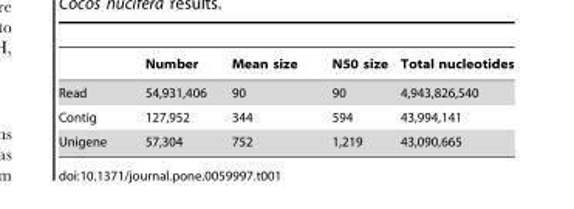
<table><thead><tr><td></td><td>Number</td><td>Mean size</td><td>N50 size</td><td>Total nucleotides</td></tr></thead><tbody><tr><td>Read</td><td>54,931,406</td><td>90</td><td>90</td><td>4,943,826,540</td></tr><tr><td>Contig</td><td>127,952</td><td>344</td><td>594</td><td>43,994,141</td></tr><tr><td>Unigene</td><td>57,304</td><td>752</td><td>1,219</td><td>43,090,665</td></tr></tbody></table>